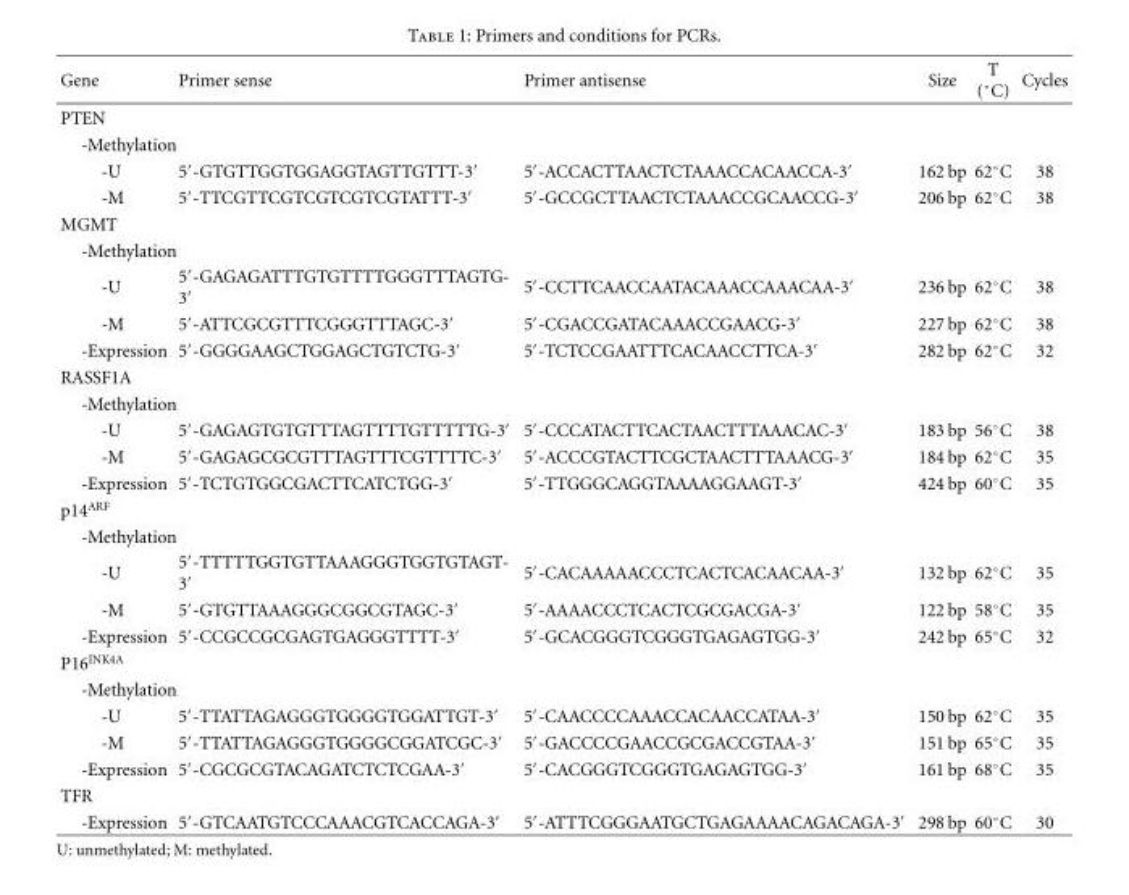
<table><thead><tr><td>Gene</td><td>Primer sense</td><td>Primer antisense</td><td>Size</td><td>T (◦C)</td><td>Cycles</td></tr></thead><tbody><tr><td colspan="6">PTEN</td></tr><tr><td colspan="6">-Methylation</td></tr><tr><td>-U</td><td>5′-GTGTTGGTGGAGGTAGTTGTTT-3′</td><td>5′-ACCACTTAACTCTAAACCACAACCA-3′</td><td>162 bp</td><td>62◦C</td><td>38</td></tr><tr><td>-M</td><td>5′-TTCGTTCGTCGTCGTCGTATTT-3′</td><td>5′-GCCGCTTAACTCTAAACCGCAACCG-3′</td><td>206 bp</td><td>62◦C</td><td>38</td></tr><tr><td colspan="6">MGMT</td></tr><tr><td colspan="6">-Methylation</td></tr><tr><td>-U</td><td>5′-GAGAGATTTGTGTTTTGGGTTTAGTG- 3′</td><td>5′-CCTTCAACCAATACAAACCAAACAA-3′</td><td>236 bp</td><td>62◦C</td><td>38</td></tr><tr><td>-M</td><td>5′-ATTCGCGTTTCGGGTTTAGC-3′</td><td>5′-CGACCGATACAAACCGAACG-3′</td><td>227 bp</td><td>62◦C</td><td>38</td></tr><tr><td>-Expression</td><td>5′-GGGGAAGCTGGAGCTGTCTG-3′</td><td>5′-TCTCCGAATTTCACAACCTTCA-3′</td><td>282 bp</td><td>62◦C</td><td>32</td></tr><tr><td colspan="6">RASSF1A</td></tr><tr><td colspan="6">-Methylation</td></tr><tr><td>-U</td><td>5′-GAGAGTGTGTTTAGTTTTGTTTTTG-3′</td><td>5′-CCCATACTTCACTAACTTTAAACAC-3′</td><td>183 bp</td><td>56◦C</td><td>38</td></tr><tr><td>-M</td><td>5′-GAGAGCGCGTTTAGTTTCGTTTTC-3′</td><td>5′-ACCCGTACTTCGCTAACTTTAAACG-3′</td><td>184 bp</td><td>62◦C</td><td>35</td></tr><tr><td>-Expression</td><td>5′-TCTGTGGCGACTTCATCTGG-3′</td><td>5′-TTGGGCAGGTAAAAGGAAGT-3′</td><td>424 bp</td><td>60◦C</td><td>35</td></tr><tr><td colspan="6">p14<sup>ARF</sup></td></tr><tr><td colspan="6">-Methylation</td></tr><tr><td>-U</td><td>5′-TTTTTGGTGTTAAAGGGTGGTGTAGT- 3′</td><td>5′-CACAAAAACCCTCACTCACAACAA-3′</td><td>132 bp</td><td>62◦C</td><td>35</td></tr><tr><td>-M</td><td>5′-GTGTTAAAGGGCGGCGTAGC-3′</td><td>5′-AAAACCCTCACTCGCGACGA-3′</td><td>122 bp</td><td>58◦C</td><td>35</td></tr><tr><td>-Expression</td><td>5′-CCGCCGCGAGTGAGGGTTTT-3′</td><td>5′-GCACGGGTCGGGTGAGAGTGG-3′</td><td>242 bp</td><td>65◦C</td><td>32</td></tr><tr><td colspan="6">P16<sup>INK4A</sup></td></tr><tr><td colspan="6">-Methylation</td></tr><tr><td>-U</td><td>5′-TTATTAGAGGGTGGGGTGGATTGT-3′</td><td>5′-CAACCCCAAACCACAACCATAA-3′</td><td>150 bp</td><td>62◦C</td><td>35</td></tr><tr><td>-M</td><td>5′-TTATTAGAGGGTGGGGCGGATCGC-3′</td><td>5′-GACCCCGAACCGCGACCGTAA-3′</td><td>151 bp</td><td>65◦C</td><td>35</td></tr><tr><td>-Expression</td><td>5′-CGCGCGTACAGATCTCTCGAA-3′</td><td>5′-CACGGGTCGGGTGAGAGTGG-3′</td><td>161 bp</td><td>68◦C</td><td>35</td></tr><tr><td colspan="6">TFR</td></tr><tr><td>-Expression</td><td>5′-GTCAATGTCCCAAACGTCACCAGA-3′</td><td>5′-ATTTCGGGAATGCTGAGAAAACAGACAGA-3′</td><td>298 bp</td><td>60◦C</td><td>30</td></tr></tbody></table>